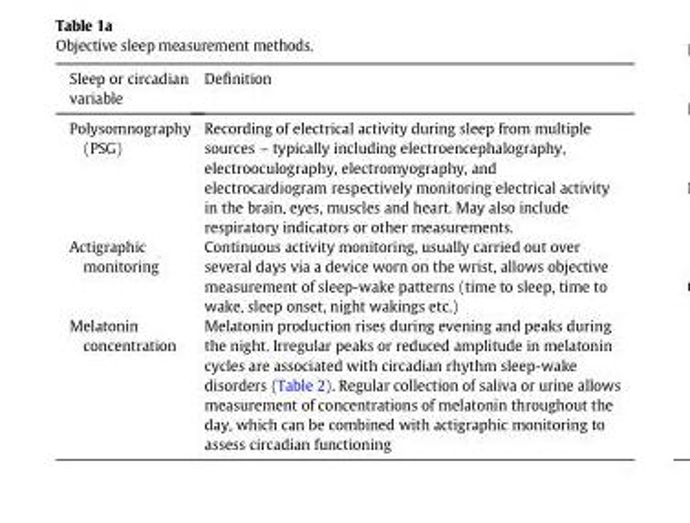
<table><thead><tr><td>Sleep or circadian variable</td><td>Definition</td></tr></thead><tbody><tr><td>Polysomnography (PSG)</td><td>Recording of electrical activity during sleep from multiple sources – typically including electroencephalography, electrooculography, electromyography, and electrocardiogram respectively monitoring electrical activity in the brain, eyes, muscles and heart. May also include respiratory indicators or other measurements.</td></tr><tr><td>Actigraphic monitoring</td><td>Continuous activity monitoring, usually carried out over several days via a device worn on the wrist, allows objective measurement of sleep-wake patterns (time to sleep, time to wake, sleep onset, night wakings etc.)</td></tr><tr><td>Melatonin concentration</td><td>Melatonin production rises during evening and peaks during the night. Irregular peaks or reduced amplitude in melatonin cycles are associated with circadian rhythm sleep-wake disorders (Table 2). Regular collection of saliva or urine allows measurement of concentrations of melatonin throughout the day, which can be combined with actigraphic monitoring to assess circadian functioning</td></tr></tbody></table>